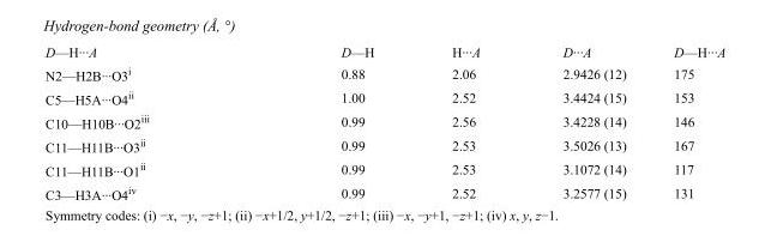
<table><tbody><tr><td>D—H···A</td><td>D—H</td><td>H···A</td><td>D···A</td><td>D—H···A</td></tr><tr><td>N2—H2B···O3<sup>i</sup></td><td>0.88</td><td>2.06</td><td>2.9426 (12)</td><td>175</td></tr><tr><td>C5—H5A···O4<sup>ii</sup></td><td>1.00</td><td>2.52</td><td>3.4424 (15)</td><td>153</td></tr><tr><td>C10—H10B···O2<sup>iii</sup></td><td>0.99</td><td>2.56</td><td>3.4228 (14)</td><td>146</td></tr><tr><td>C11—H11B···O3<sup>ii</sup></td><td>0.99</td><td>2.53</td><td>3.5026 (13)</td><td>167</td></tr><tr><td>C11—H11B···O1<sup>ii</sup></td><td>0.99</td><td>2.53</td><td>3.1072 (14)</td><td>117</td></tr><tr><td>C3—H3A···O4<sup>iv</sup></td><td>0.99</td><td>2.52</td><td>3.2577 (15)</td><td>131</td></tr></tbody></table>